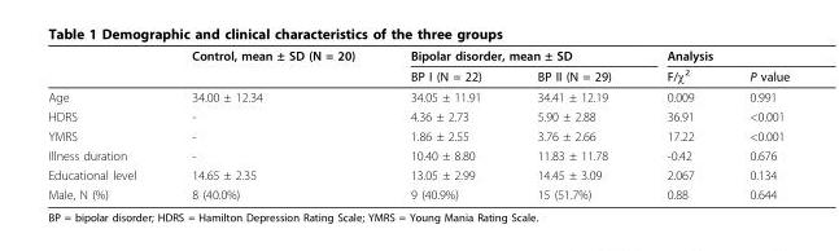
<table><thead><tr><td rowspan="2"></td><td rowspan="2">Control, mean ± SD (N = 20)</td><td colspan="2">Bipolar disorder, mean ± SD</td><td colspan="2">Analysis</td></tr><tr><td>BP I (N = 22)</td><td>BP II (N = 29)</td><td>F/χ<sup>2</sup></td><td>P value</td></tr></thead><tbody><tr><td>Age</td><td>34.00 ± 12.34</td><td>34.05 ± 11.91</td><td>34.41 ± 12.19</td><td>0.009</td><td>0.991</td></tr><tr><td>HDRS</td><td>-</td><td>4.36 ± 2.73</td><td>5.90 ± 2.88</td><td>36.91</td><td>&lt;0.001</td></tr><tr><td>YMRS</td><td>-</td><td>1.86 ± 2.55</td><td>3.76 ± 2.66</td><td>17.22</td><td>&lt;0.001</td></tr><tr><td>Illness duration</td><td>-</td><td>10.40 ± 8.80</td><td>11.83 ± 11.78</td><td>-0.42</td><td>0.676</td></tr><tr><td>Educational level</td><td>14.65 ± 2.35</td><td>13.05 ± 2.99</td><td>14.45 ± 3.09</td><td>2.067</td><td>0.134</td></tr><tr><td>Male, N (%)</td><td>8 (40.0%)</td><td>9 (40.9%)</td><td>15 (51.7%)</td><td>0.88</td><td>0.644</td></tr></tbody></table>